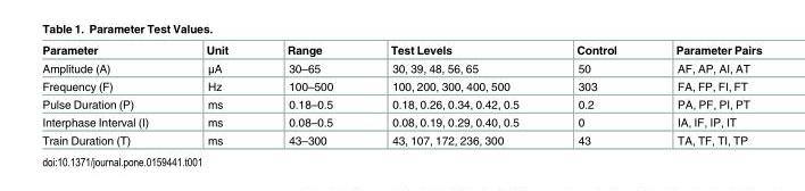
<table><thead><tr><td>Parameter</td><td>Unit</td><td>Range</td><td>Test Levels</td><td>Control</td><td>Parameter Pairs</td></tr></thead><tbody><tr><td>Amplitude (A)</td><td>μA</td><td>30–65</td><td>30, 39, 48, 56, 65</td><td>50</td><td>AF, AP, AI, AT</td></tr><tr><td>Frequency (F)</td><td>Hz</td><td>100–500</td><td>100, 200, 300, 400, 500</td><td>303</td><td>FA, FP, FI, FT</td></tr><tr><td>Pulse Duration (P)</td><td>ms</td><td>0.18–0.5</td><td>0.18, 0.26, 0.34, 0.42, 0.5</td><td>0.2</td><td>PA, PF, PI, PT</td></tr><tr><td>Interphase Interval (I)</td><td>ms</td><td>0.08–0.5</td><td>0.08, 0.19, 0.29, 0.40, 0.5</td><td>0</td><td>IA, IF, IP, IT</td></tr><tr><td>Train Duration (T)</td><td>ms</td><td>43–300</td><td>43, 107, 172, 236, 300</td><td>43</td><td>TA, TF, TI, TP</td></tr></tbody></table>